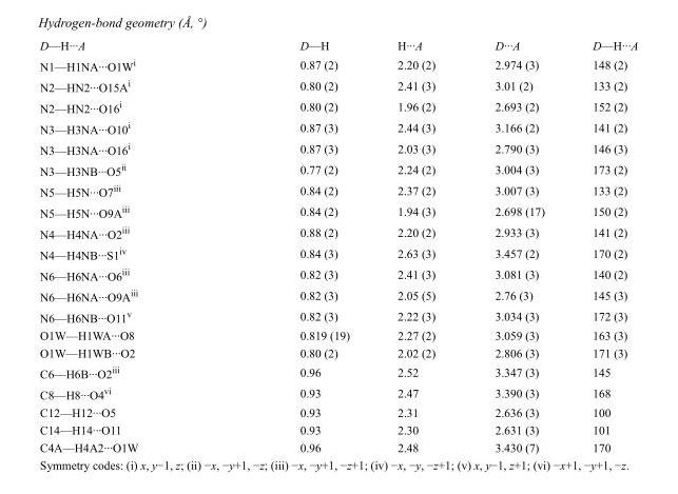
<table><tbody><tr><td>D—H···A</td><td>D—H</td><td>H···A</td><td>D···A</td><td>D—H···A</td></tr><tr><td>N1—H1NA···O1W<sup>i</sup></td><td>0.87 (2)</td><td>2.20 (2)</td><td>2.974 (3)</td><td>148 (2)</td></tr><tr><td>N2—HN2···O15A<sup>i</sup></td><td>0.80 (2)</td><td>2.41 (3)</td><td>3.01 (2)</td><td>133 (2)</td></tr><tr><td>N2—HN2···O16<sup>i</sup></td><td>0.80 (2)</td><td>1.96 (2)</td><td>2.693 (2)</td><td>152 (2)</td></tr><tr><td>N3—H3NA···O10<sup>i</sup></td><td>0.87 (3)</td><td>2.44 (3)</td><td>3.166 (2)</td><td>141 (2)</td></tr><tr><td>N3—H3NA···O16<sup>i</sup></td><td>0.87 (3)</td><td>2.03 (3)</td><td>2.790 (3)</td><td>146 (3)</td></tr><tr><td>N3—H3NB···O5<sup>ii</sup></td><td>0.77 (2)</td><td>2.24 (2)</td><td>3.004 (3)</td><td>173 (2)</td></tr><tr><td>N5—H5N···O7<sup>iii</sup></td><td>0.84 (2)</td><td>2.37 (2)</td><td>3.007 (3)</td><td>133 (2)</td></tr><tr><td>N5—H5N···O9A<sup>iii</sup></td><td>0.84 (2)</td><td>1.94 (3)</td><td>2.698 (17)</td><td>150 (2)</td></tr><tr><td>N4—H4NA···O2<sup>iii</sup></td><td>0.88 (2)</td><td>2.20 (2)</td><td>2.933 (3)</td><td>141 (2)</td></tr><tr><td>N4—H4NB···S1<sup>iv</sup></td><td>0.84 (3)</td><td>2.63 (3)</td><td>3.457 (2)</td><td>170 (2)</td></tr><tr><td>N6—H6NA···O6<sup>iii</sup></td><td>0.82 (3)</td><td>2.41 (3)</td><td>3.081 (3)</td><td>140 (2)</td></tr><tr><td>N6—H6NA···O9A<sup>iii</sup></td><td>0.82 (3)</td><td>2.05 (5)</td><td>2.76 (3)</td><td>145 (3)</td></tr><tr><td>N6—H6NB···O11<sup>v</sup></td><td>0.82 (3)</td><td>2.22 (3)</td><td>3.034 (3)</td><td>172 (3)</td></tr><tr><td>O1W—H1WA···O8</td><td>0.819 (19)</td><td>2.27 (2)</td><td>3.059 (3)</td><td>163 (3)</td></tr><tr><td>O1W—H1WB···O2</td><td>0.80 (2)</td><td>2.02 (2)</td><td>2.806 (3)</td><td>171 (3)</td></tr><tr><td>C6—H6B···O2<sup>iii</sup></td><td>0.96</td><td>2.52</td><td>3.347 (3)</td><td>145</td></tr><tr><td>C8—H8···O4<sup>vi</sup></td><td>0.93</td><td>2.47</td><td>3.390 (3)</td><td>168</td></tr><tr><td>C12—H12···O5</td><td>0.93</td><td>2.31</td><td>2.636 (3)</td><td>100</td></tr><tr><td>C14—H14···O11</td><td>0.93</td><td>2.30</td><td>2.631 (3)</td><td>101</td></tr><tr><td>C4A—H4A2···O1W</td><td>0.96</td><td>2.48</td><td>3.430 (7)</td><td>170</td></tr></tbody></table>